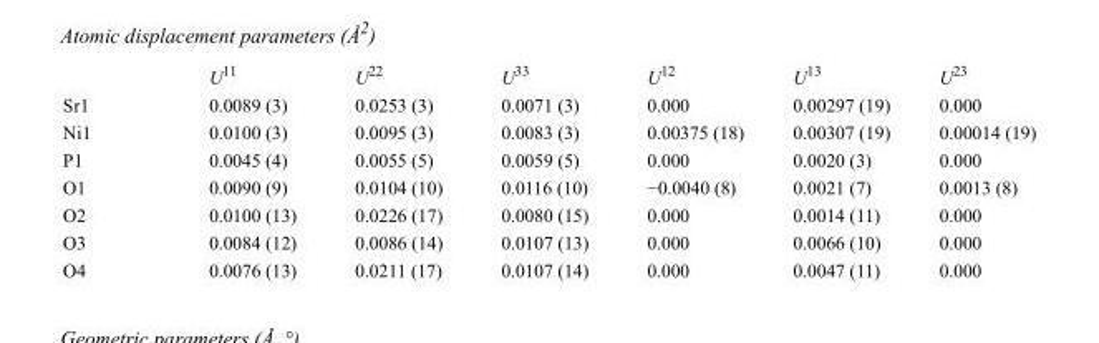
<table><thead><tr><td></td><td>U<sup>11</sup></td><td>U<sup>22</sup></td><td>U<sup>33</sup></td><td>U<sup>12</sup></td><td>U<sup>13</sup></td><td>U<sup>23</sup></td></tr></thead><tbody><tr><td>Sr1</td><td>0.0089 (3)</td><td>0.0253 (3)</td><td>0.0071 (3)</td><td>0.000</td><td>0.00297 (19)</td><td>0.000</td></tr><tr><td>Ni1</td><td>0.0100 (3)</td><td>0.0095 (3)</td><td>0.0083 (3)</td><td>0.00375 (18)</td><td>0.00307 (19)</td><td>0.00014 (19)</td></tr><tr><td>P1</td><td>0.0045 (4)</td><td>0.0055 (5)</td><td>0.0059 (5)</td><td>0.000</td><td>0.0020 (3)</td><td>0.000</td></tr><tr><td>O1</td><td>0.0090 (9)</td><td>0.0104 (10)</td><td>0.0116 (10)</td><td>−0.0040 (8)</td><td>0.0021 (7)</td><td>0.0013 (8)</td></tr><tr><td>O2</td><td>0.0100 (13)</td><td>0.0226 (17)</td><td>0.0080 (15)</td><td>0.000</td><td>0.0014 (11)</td><td>0.000</td></tr><tr><td>O3</td><td>0.0084 (12)</td><td>0.0086 (14)</td><td>0.0107 (13)</td><td>0.000</td><td>0.0066 (10)</td><td>0.000</td></tr><tr><td>O4</td><td>0.0076 (13)</td><td>0.0211 (17)</td><td>0.0107 (14)</td><td>0.000</td><td>0.0047 (11)</td><td>0.000</td></tr></tbody></table>